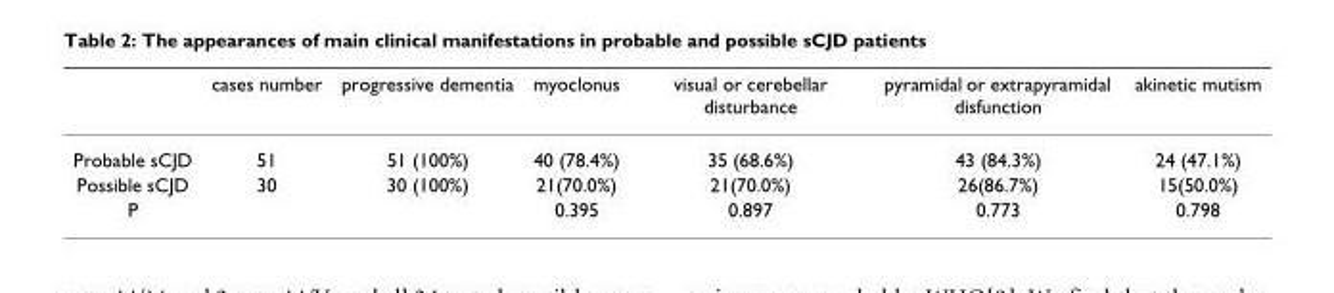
<table><thead><tr><td></td><td>cases number</td><td>progressive dementia</td><td>myoclonus</td><td>visual or cerebellar disturbance</td><td>pyramidal or extrapyramidal disfunction</td><td>akinetic mutism</td></tr></thead><tbody><tr><td>Probable sCJD</td><td>51</td><td>51 (100%)</td><td>40 (78.4%)</td><td>35 (68.6%)</td><td>43 (84.3%)</td><td>24 (47.1%)</td></tr><tr><td>Possible sCJD</td><td>30</td><td>30 (100%)</td><td>21(70.0%)</td><td>21(70.0%)</td><td>26(86.7%)</td><td>15(50.0%)</td></tr><tr><td>P</td><td></td><td></td><td>0.395</td><td>0.897</td><td>0.773</td><td>0.798</td></tr></tbody></table>